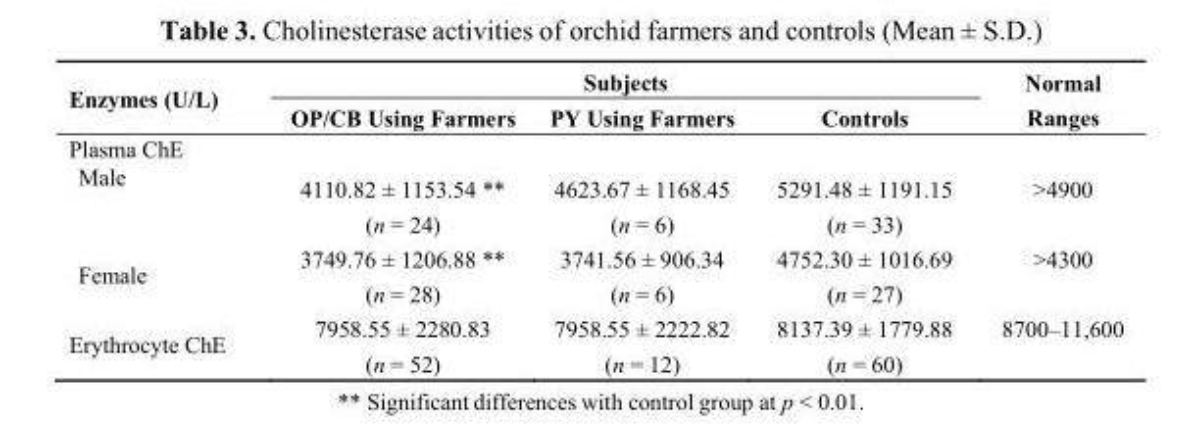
<table><thead><tr><td rowspan="2">Enzymes (U/L)</td><td colspan="3">Subjects</td><td rowspan="2">Normal Ranges</td></tr><tr><td>OP/CB Using Farmers</td><td>PY Using Farmers</td><td>Controls</td></tr></thead><tbody><tr><td colspan="5">Plasma ChE</td></tr><tr><td>Male</td><td>4110.82 ± 1153.54 ** (n = 24)</td><td>4623.67 ± 1168.45 (n = 6)</td><td>5291.48 ± 1191.15 (n = 33)</td><td>&gt;4900</td></tr><tr><td>Female</td><td>3749.76 ± 1206.88 ** (n = 28)</td><td>3741.56 ± 906.34 (n = 6)</td><td>4752.30 ± 1016.69 (n = 27)</td><td>&gt;4300</td></tr><tr><td>Erythrocyte ChE</td><td>7958.55 ± 2280.83 (n = 52)</td><td>7958.55 ± 2222.82 (n = 12)</td><td>8137.39 ± 1779.88 (n = 60)</td><td>8700–11,600</td></tr></tbody></table>